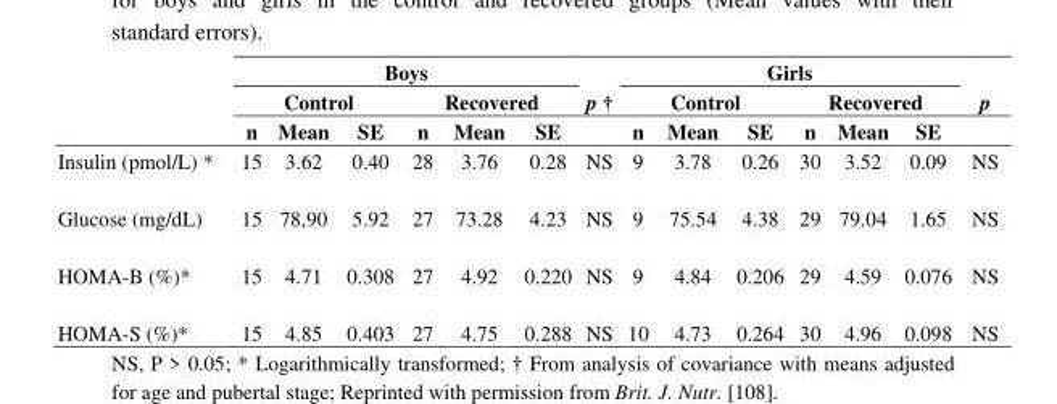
<table><thead><tr><td rowspan="3"></td><td colspan="6">Boys</td><td rowspan="3">p †</td><td colspan="6">Girls</td><td rowspan="3">p</td></tr><tr><td colspan="3">Control</td><td colspan="3">Recovered</td><td colspan="3">Control</td><td colspan="3">Recovered</td></tr><tr><td>n</td><td>Mean</td><td>SE</td><td>n</td><td>Mean</td><td>SE</td><td>n</td><td>Mean</td><td>SE</td><td>n</td><td>Mean</td><td>SE</td></tr></thead><tbody><tr><td>Insulin (pmol/L) *</td><td>15</td><td>3.62</td><td>0.40</td><td>28</td><td>3.76</td><td>0.28</td><td>NS</td><td>9</td><td>3.78</td><td>0.26</td><td>30</td><td>3.52</td><td>0.09</td><td>NS</td></tr><tr><td>Glucose (mg/dL)</td><td>15</td><td>78,90</td><td>5.92</td><td>27</td><td>73.28</td><td>4.23</td><td>NS</td><td>9</td><td>75.54</td><td>4.38</td><td>29</td><td>79.04</td><td>1.65</td><td>NS</td></tr><tr><td>HOMA-B (%)*</td><td>15</td><td>4.71</td><td>0.308</td><td>27</td><td>4.92</td><td>0.220</td><td>NS</td><td>9</td><td>4.84</td><td>0.206</td><td>29</td><td>4.59</td><td>0.076</td><td>NS</td></tr><tr><td>HOMA-S (%)*</td><td>15</td><td>4.85</td><td>0.403</td><td>27</td><td>4.75</td><td>0.288</td><td>NS</td><td>10</td><td>4.73</td><td>0.264</td><td>30</td><td>4.96</td><td>0.098</td><td>NS</td></tr></tbody></table>